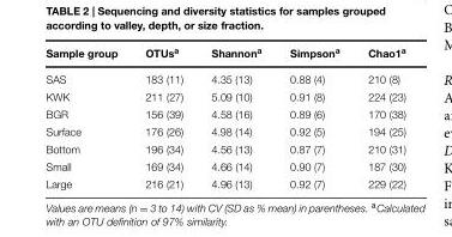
<table><thead><tr><td>Sample group</td><td>OTUs<sup>a</sup></td><td>Shannon<sup>a</sup></td><td>Simpson<sup>a</sup></td><td>Chao1<sup>a</sup></td></tr></thead><tbody><tr><td>SAS</td><td>183 (11)</td><td>4.35 (13)</td><td>0.88 (4)</td><td>210 (8)</td></tr><tr><td>KWK</td><td>211 (27)</td><td>5.09 (10)</td><td>0.91 (8)</td><td>224 (23)</td></tr><tr><td>BGR</td><td>156 (39)</td><td>4.58 (16)</td><td>0.89 (6)</td><td>170 (38)</td></tr><tr><td>Surface</td><td>176 (26)</td><td>4.98 (14)</td><td>0.92 (5)</td><td>194 (25)</td></tr><tr><td>Bottom</td><td>196 (34)</td><td>4.56 (13)</td><td>0.87 (7)</td><td>210 (31)</td></tr><tr><td>Small</td><td>169 (34)</td><td>4.66 (14)</td><td>0.90 (7)</td><td>187 (30)</td></tr><tr><td>Large</td><td>216 (21)</td><td>4.96 (13)</td><td>0.92 (7)</td><td>229 (22)</td></tr></tbody></table>